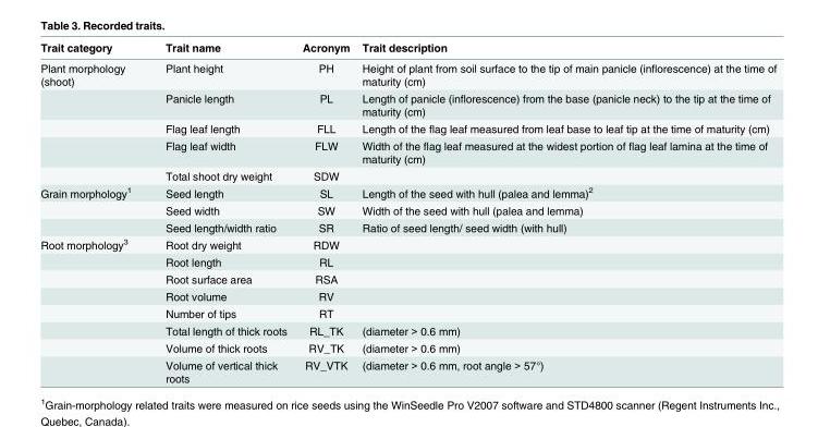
<table><thead><tr><td>Trait category</td><td>Trait name</td><td>Acronym</td><td>Trait description</td></tr></thead><tbody><tr><td rowspan="5">Plant morphology (shoot)</td><td>Plant height</td><td>PH</td><td>Height of plant from soil surface to the tip of main panicle (inflorescence) at the time of maturity (cm)</td></tr><tr><td>Panicle length</td><td>PL</td><td>Length of panicle (inflorescence) from the base (panicle neck) to the tip at the time of maturity (cm)</td></tr><tr><td>Flag leaf length</td><td>FLL</td><td>Length of the flag leaf measured from leaf base to leaf tip at the time of maturity (cm)</td></tr><tr><td>Flag leaf width</td><td>FLW</td><td>Width of the flag leaf measured at the widest portion of flag leaf lamina at the time of maturity (cm)</td></tr><tr><td>Total shoot dry weight</td><td>SDW</td><td></td></tr><tr><td rowspan="3">Grain morphology<sup>1</sup></td><td>Seed length</td><td>SL</td><td>Length of the seed with hull (palea and lemma)<sup>2</sup></td></tr><tr><td>Seed width</td><td>SW</td><td>Width of the seed with hull (palea and lemma)</td></tr><tr><td>Seed length/width ratio</td><td>SR</td><td>Ratio of seed length/ seed width (with hull)</td></tr><tr><td rowspan="8">Root morphology<sup>3</sup></td><td>Root dry weight</td><td>RDW</td><td></td></tr><tr><td>Root length</td><td>RL</td><td></td></tr><tr><td>Root surface area</td><td>RSA</td><td></td></tr><tr><td>Root volume</td><td>RV</td><td></td></tr><tr><td>Number of tips</td><td>RT</td><td></td></tr><tr><td>Total length of thick roots</td><td>RL_TK</td><td>(diameter &gt; 0.6 mm)</td></tr><tr><td>Volume of thick roots</td><td>RV_TK</td><td>(diameter &gt; 0.6 mm)</td></tr><tr><td>Volume of vertical thick roots</td><td>RV_VTK</td><td>(diameter &gt; 0.6 mm, root angle &gt; 57°)</td></tr></tbody></table>